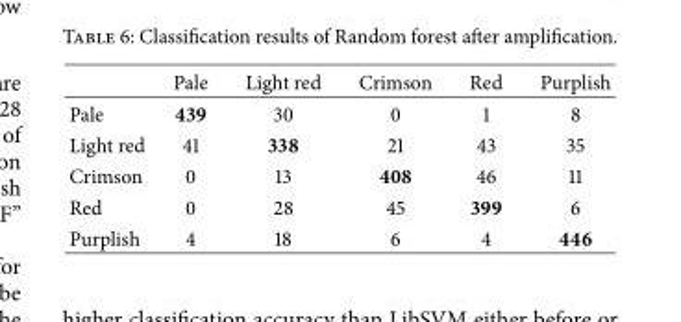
<table><thead><tr><td></td><td>Pale</td><td>Light red</td><td>Crimson</td><td>Red</td><td>Purplish</td></tr></thead><tbody><tr><td>Pale</td><td>439</td><td>30</td><td>0</td><td>1</td><td>8</td></tr><tr><td>Light red</td><td>41</td><td>338</td><td>21</td><td>43</td><td>35</td></tr><tr><td>Crimson</td><td>0</td><td>13</td><td>408</td><td>46</td><td>11</td></tr><tr><td>Red</td><td>0</td><td>28</td><td>45</td><td>399</td><td>6</td></tr><tr><td>Purplish</td><td>4</td><td>18</td><td>6</td><td>4</td><td>446</td></tr></tbody></table>